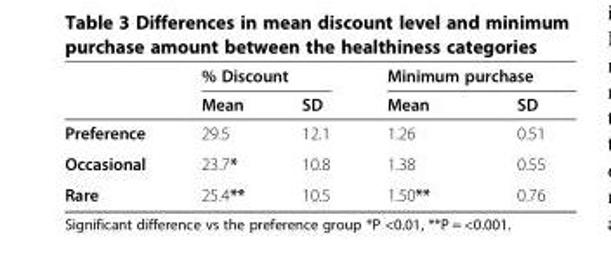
<table><thead><tr><td rowspan="2"></td><td colspan="2">% Discount</td><td colspan="2">Minimum purchase</td></tr><tr><td>Mean</td><td>SD</td><td>Mean</td><td>SD</td></tr></thead><tbody><tr><td>Preference</td><td>29.5</td><td>12.1</td><td>1.26</td><td>0.51</td></tr><tr><td>Occasional</td><td>23.7*</td><td>10.8</td><td>1.38</td><td>0.55</td></tr><tr><td>Rare</td><td>25.4**</td><td>10.5</td><td>1.50**</td><td>0.76</td></tr></tbody></table>